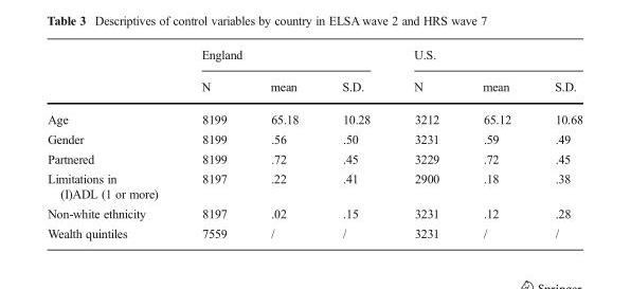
<table><thead><tr><td rowspan="2"></td><td colspan="3">England</td><td colspan="3">U.S.</td></tr><tr><td>N</td><td>mean</td><td>S.D.</td><td>N</td><td>mean</td><td>S.D.</td></tr></thead><tbody><tr><td>Age</td><td>8199</td><td>65.18</td><td>10.28</td><td>3212</td><td>65.12</td><td>10.68</td></tr><tr><td>Gender</td><td>8199</td><td>.56</td><td>.50</td><td>3231</td><td>.59</td><td>.49</td></tr><tr><td>Partnered</td><td>8199</td><td>.72</td><td>.45</td><td>3229</td><td>.72</td><td>.45</td></tr><tr><td>Limitations in (I)ADL (1 or more)</td><td>8197</td><td>.22</td><td>.41</td><td>2900</td><td>.18</td><td>.38</td></tr><tr><td>Non-white ethnicity</td><td>8197</td><td>.02</td><td>.15</td><td>3231</td><td>.12</td><td>.28</td></tr><tr><td>Wealth quintiles</td><td>7559</td><td>/</td><td>/</td><td>3231</td><td>/</td><td>/</td></tr></tbody></table>